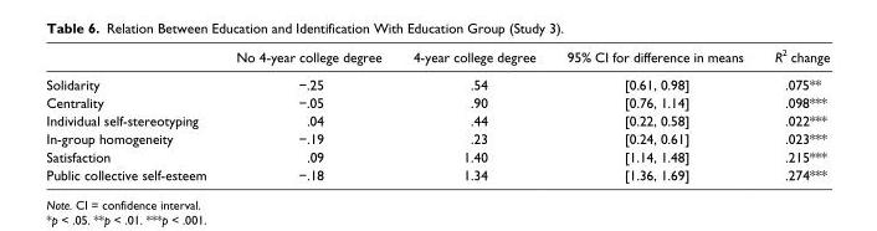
<table><thead><tr><td></td><td>No 4-year college degree</td><td>4-year college degree</td><td>95% CI for difference in means</td><td>R<sup>2</sup> change</td></tr></thead><tbody><tr><td>Solidarity</td><td>−.25</td><td>.54</td><td>[0.61, 0.98]</td><td>.075**</td></tr><tr><td>Centrality</td><td>−.05</td><td>.90</td><td>[0.76, 1.14]</td><td>.098***</td></tr><tr><td>Individual self-stereotyping</td><td>.04</td><td>.44</td><td>[0.22, 0.58]</td><td>.022***</td></tr><tr><td>In-group homogeneity</td><td>−.19</td><td>.23</td><td>[0.24, 0.61]</td><td>.023***</td></tr><tr><td>Satisfaction</td><td>.09</td><td>1.40</td><td>[1.14, 1.48]</td><td>.215***</td></tr><tr><td>Public collective self-esteem</td><td>−.18</td><td>1.34</td><td>[1.36, 1.69]</td><td>.274***</td></tr></tbody></table>